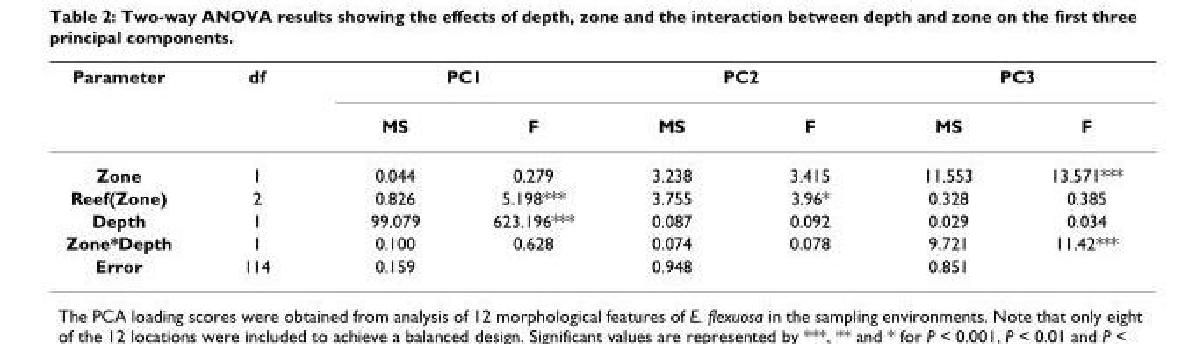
<table><thead><tr><td rowspan="2">Parameter</td><td rowspan="2">df</td><td colspan="2">PC1</td><td colspan="2">PC2</td><td colspan="2">PC3</td></tr><tr><td>MS</td><td>F</td><td>MS</td><td>F</td><td>MS</td><td>F</td></tr></thead><tbody><tr><td>Zone</td><td>1</td><td>0.044</td><td>0.279</td><td>3.238</td><td>3.415</td><td>11.553</td><td>13.571***</td></tr><tr><td>Reef(Zone)</td><td>2</td><td>0.826</td><td>5.198***</td><td>3.755</td><td>3.96*</td><td>0.328</td><td>0.385</td></tr><tr><td>Depth</td><td>1</td><td>99.079</td><td>623.196***</td><td>0.087</td><td>0.092</td><td>0.029</td><td>0.034</td></tr><tr><td>Zone*Depth</td><td>1</td><td>0.100</td><td>0.628</td><td>0.074</td><td>0.078</td><td>9.721</td><td>11.42***</td></tr><tr><td>Error</td><td>114</td><td>0.159</td><td></td><td>0.948</td><td></td><td>0.851</td><td></td></tr></tbody></table>